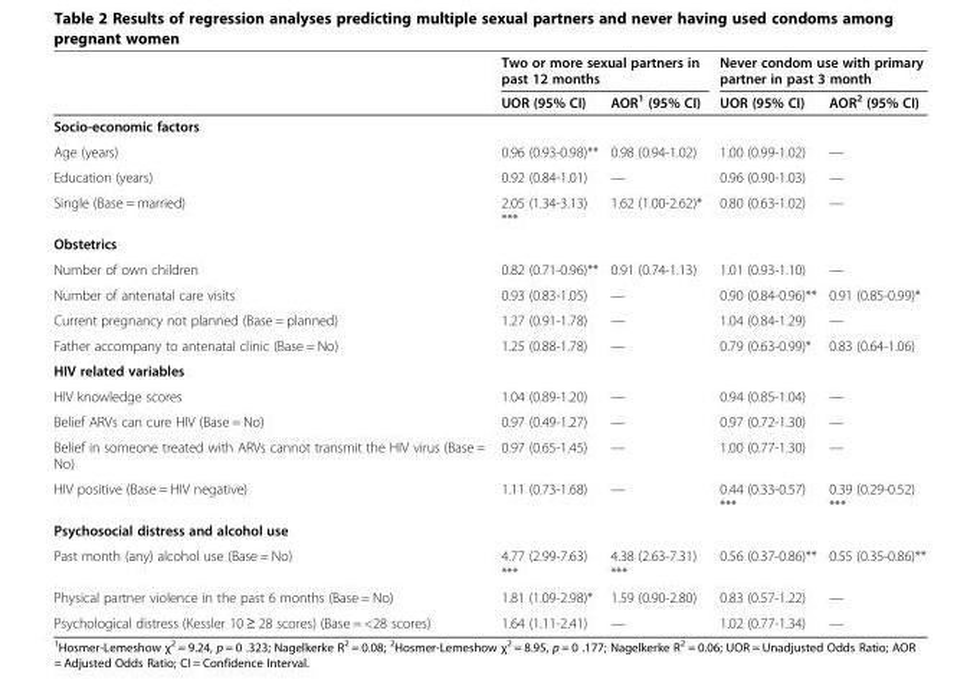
<table><thead><tr><td rowspan="2"></td><td colspan="2">Two or more sexual partners in past 12 months</td><td colspan="2">Never condom use with primary partner in past 3 month</td></tr><tr><td>UOR (95% CI)</td><td>AOR<sup>1</sup> (95% CI)</td><td>UOR (95% CI)</td><td>AOR<sup>2</sup> (95% CI)</td></tr></thead><tbody><tr><td colspan="5">Socio-economic factors</td></tr><tr><td>Age (years)</td><td>0.96 (0.93-0.98)**</td><td>0.98 (0.94-1.02)</td><td>1.00 (0.99-1.02)</td><td>—</td></tr><tr><td>Education (years)</td><td>0.92 (0.84-1.01)</td><td>—</td><td>0.96 (0.90-1.03)</td><td>—</td></tr><tr><td>Single (Base = married)</td><td>2.05 (1.34-3.13) ***</td><td>1.62 (1.00-2.62)*</td><td>0.80 (0.63-1.02)</td><td>—</td></tr><tr><td colspan="5">Obstetrics</td></tr><tr><td>Number of own children</td><td>0.82 (0.71-0.96)**</td><td>0.91 (0.74-1.13)</td><td>1.01 (0.93-1.10)</td><td>—</td></tr><tr><td>Number of antenatal care visits</td><td>0.93 (0.83-1.05)</td><td>—</td><td>0.90 (0.84-0.96)**</td><td>0.91 (0.85-0.99)*</td></tr><tr><td>Current pregnancy not planned (Base = planned)</td><td>1.27 (0.91-1.78)</td><td>—</td><td>1.04 (0.84-1.29)</td><td>—</td></tr><tr><td>Father accompany to antenatal clinic (Base = No)</td><td>1.25 (0.88-1.78)</td><td>—</td><td>0.79 (0.63-0.99)*</td><td>0.83 (0.64-1.06)</td></tr><tr><td colspan="5">HIV related variables</td></tr><tr><td>HIV knowledge scores</td><td>1.04 (0.89-1.20)</td><td>—</td><td>0.94 (0.85-1.04)</td><td>—</td></tr><tr><td>Belief ARVs can cure HIV (Base = No)</td><td>0.97 (0.49-1.27)</td><td>—</td><td>0.97 (0.72-1.30)</td><td>—</td></tr><tr><td>Belief in someone treated with ARVs cannot transmit the HIV virus (Base = No)</td><td>0.97 (0.65-1.45)</td><td>—</td><td>1.00 (0.77-1.30)</td><td>—</td></tr><tr><td>HIV positive (Base = HIV negative)</td><td>1.11 (0.73-1.68)</td><td>—</td><td>0.44 (0.33-0.57) ***</td><td>0.39 (0.29-0.52) ***</td></tr><tr><td colspan="5">Psychosocial distress and alcohol use</td></tr><tr><td>Past month (any) alcohol use (Base = No)</td><td>4.77 (2.99-7.63) ***</td><td>4.38 (2.63-7.31) ***</td><td>0.56 (0.37-0.86)**</td><td>0.55 (0.35-0.86)**</td></tr><tr><td>Physical partner violence in the past 6 months (Base = No)</td><td>1.81 (1.09-2.98)*</td><td>1.59 (0.90-2.80)</td><td>0.83 (0.57-1.22)</td><td>—</td></tr><tr><td>Psychological distress (Kessler 10 ≥ 28 scores) (Base = &lt;28 scores)</td><td>1.64 (1.11-2.41)</td><td>—</td><td>1.02 (0.77-1.34)</td><td>—</td></tr></tbody></table>